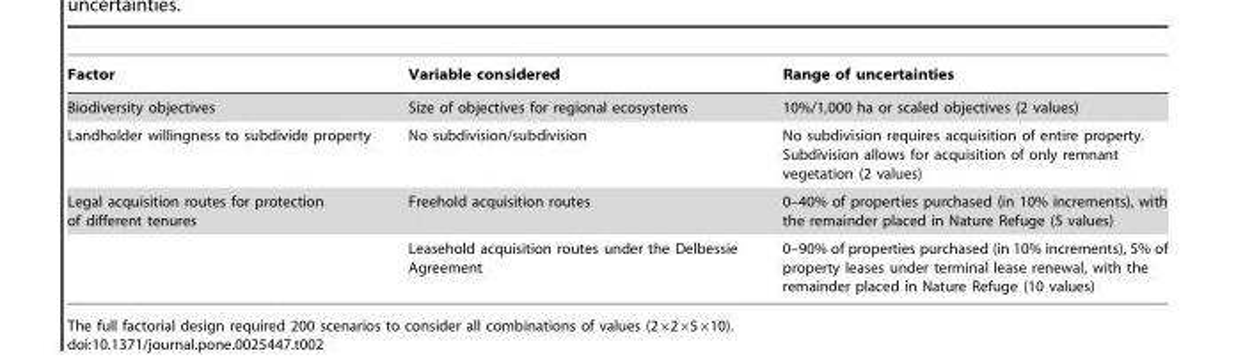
<table><thead><tr><td>Factor</td><td>Variable considered</td><td>Range of uncertainties</td></tr></thead><tbody><tr><td>Biodiversity objectives</td><td>Size of objectives for regional ecosystems</td><td>10%/1,000 ha or scaled objectives (2 values)</td></tr><tr><td>Landholder willingness to subdivide property</td><td>No subdivision/subdivision</td><td>No subdivision requires acquisition of entire property. Subdivision allows for acquisition of only remnant vegetation (2 values)</td></tr><tr><td rowspan="2">Legal acquisition routes for protection of different tenures</td><td>Freehold acquisition routes</td><td>0–40% of properties purchased (in 10% increments), with the remainder placed in Nature Refuge (5 values)</td></tr><tr><td>Leasehold acquisition routes under the Delbessie Agreement</td><td>0–90% of properties purchased (in 10% increments), 5% of property leases under terminal lease renewal, with the remainder placed in Nature Refuge (10 values)</td></tr></tbody></table>